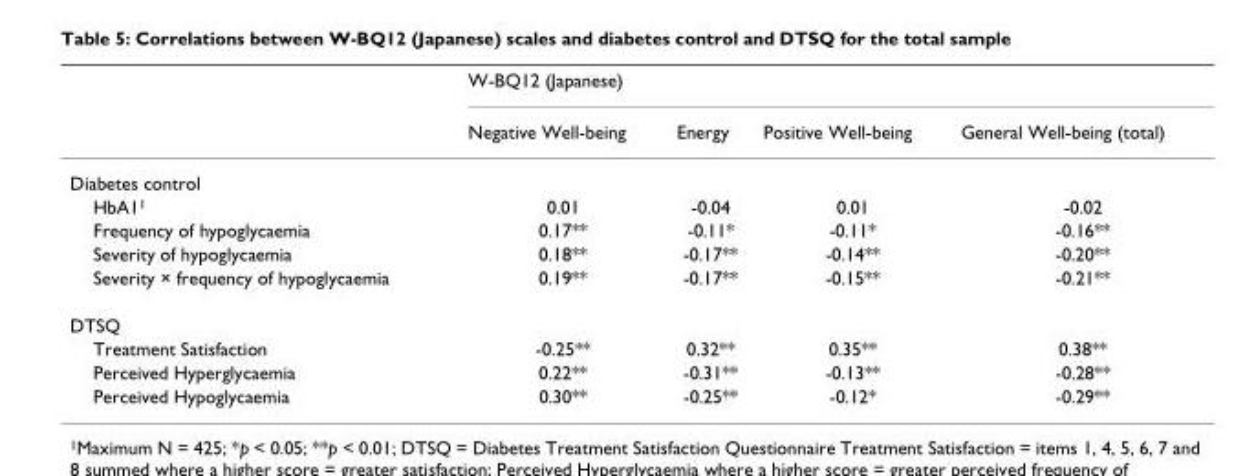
<table><thead><tr><td rowspan="2"></td><td colspan="4">W-BQ12 (Japanese)</td></tr><tr><td>Negative Well-being</td><td>Energy</td><td>Positive Well-being</td><td>General Well-being (total)</td></tr></thead><tbody><tr><td colspan="5">Diabetes control</td></tr><tr><td>HbA1<sup>1</sup></td><td>0.01</td><td>-0.04</td><td>0.01</td><td>-0.02</td></tr><tr><td>Frequency of hypoglycaemia</td><td>0.17**</td><td>-0.11*</td><td>-0.11*</td><td>-0.16**</td></tr><tr><td>Severity of hypoglycaemia</td><td>0.18**</td><td>-0.17**</td><td>-0.14**</td><td>-0.20**</td></tr><tr><td>Severity × frequency of hypoglycaemia</td><td>0.19**</td><td>-0.17**</td><td>-0.15**</td><td>-0.21**</td></tr><tr><td colspan="5">DTSQ</td></tr><tr><td>Treatment Satisfaction</td><td>-0.25**</td><td>0.32**</td><td>0.35**</td><td>0.38**</td></tr><tr><td>Perceived Hyperglycaemia</td><td>0.22**</td><td>-0.31**</td><td>-0.13**</td><td>-0.28**</td></tr><tr><td>Perceived Hypoglycaemia</td><td>0.30**</td><td>-0.25**</td><td>-0.12*</td><td>-0.29**</td></tr></tbody></table>